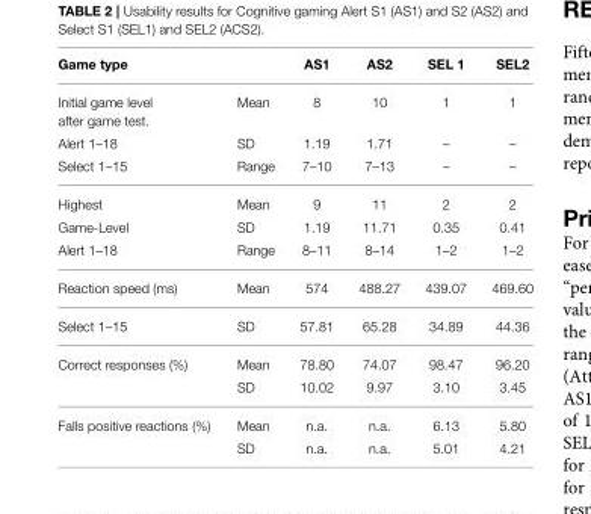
<table><thead><tr><td colspan="2">Game type</td><td rowspan="2">AS1 8</td><td rowspan="2">AS2 10</td><td rowspan="2">SEL 1 1</td><td rowspan="2">SEL2 1</td></tr><tr><td>Initial game level after game test.</td><td>Mean</td></tr></thead><tbody><tr><td>Alert 1–18</td><td>SD</td><td>1.19</td><td>1.71</td><td>–</td><td>–</td></tr><tr><td>Select 1–15</td><td>Range</td><td>7–10</td><td>7–13</td><td>–</td><td>–</td></tr><tr><td>Highest</td><td>Mean</td><td>9</td><td>11</td><td>2</td><td>2</td></tr><tr><td>Game-Level</td><td>SD</td><td>1.19</td><td>11.71</td><td>0.35</td><td>0.41</td></tr><tr><td>Alert 1–18</td><td>Range</td><td>8–11</td><td>8–14</td><td>1–2</td><td>1–2</td></tr><tr><td>Reaction speed (ms)</td><td>Mean</td><td>574</td><td>488.27</td><td>439.07</td><td>469.60</td></tr><tr><td>Select 1–15</td><td>SD</td><td>57.81</td><td>65.28</td><td>34.89</td><td>44.36</td></tr><tr><td rowspan="2">Correct responses (%)</td><td>Mean</td><td>78.80</td><td>74.07</td><td>98.47</td><td>96.20</td></tr><tr><td>SD</td><td>10.02</td><td>9.97</td><td>3.10</td><td>3.45</td></tr><tr><td rowspan="2">Falls positive reactions (%)</td><td>Mean</td><td>n.a.</td><td>n.a.</td><td>6.13</td><td>5.80</td></tr><tr><td>SD</td><td>n.a.</td><td>n.a.</td><td>5.01</td><td>4.21</td></tr></tbody></table>